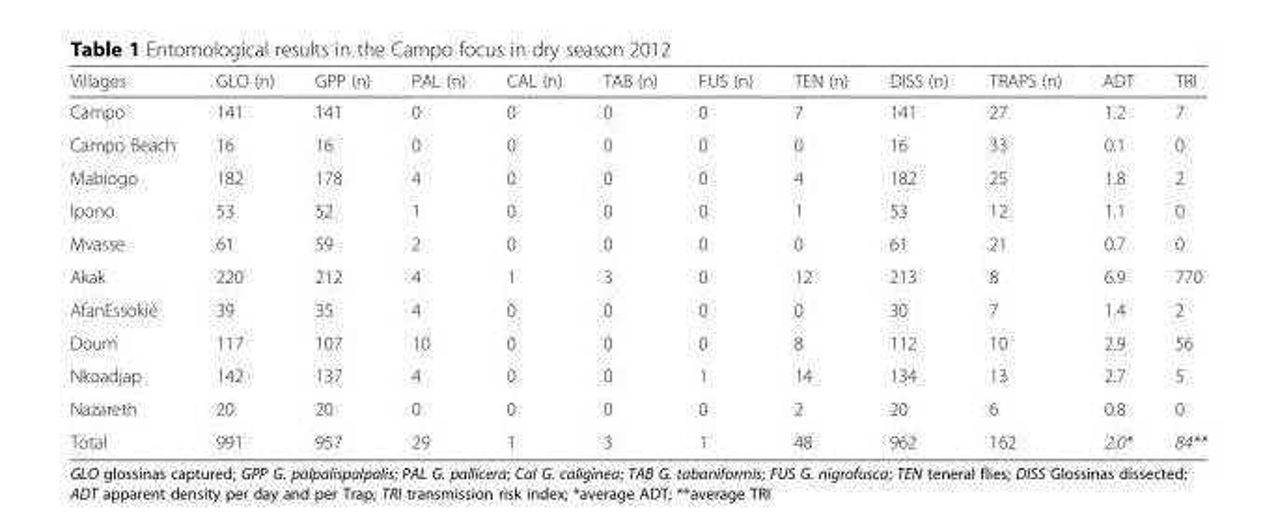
<table><thead><tr><td>Villages</td><td>GLO (n)</td><td>GPP (n)</td><td>PAL (n)</td><td>CAL (n)</td><td>TAB (n)</td><td>FUS (n)</td><td>TEN (n)</td><td>DISS (n)</td><td>TRAPS (n)</td><td>ADT</td><td>TRI</td></tr></thead><tbody><tr><td>Campo</td><td>141</td><td>141</td><td>0</td><td>0</td><td>0</td><td>0</td><td>7</td><td>141</td><td>27</td><td>1.2</td><td>7</td></tr><tr><td>Campo Beach</td><td>16</td><td>16</td><td>0</td><td>0</td><td>0</td><td>0</td><td>0</td><td>16</td><td>33</td><td>0.1</td><td>0</td></tr><tr><td>Mabiogo</td><td>182</td><td>178</td><td>4</td><td>0</td><td>0</td><td>0</td><td>4</td><td>182</td><td>25</td><td>1.8</td><td>2</td></tr><tr><td>Ipono</td><td>53</td><td>52</td><td>1</td><td>0</td><td>0</td><td>0</td><td>1</td><td>53</td><td>12</td><td>1.1</td><td>0</td></tr><tr><td>Mvasse</td><td>61</td><td>59</td><td>2</td><td>0</td><td>0</td><td>0</td><td>0</td><td>61</td><td>21</td><td>0.7</td><td>0</td></tr><tr><td>Akak</td><td>220</td><td>212</td><td>4</td><td>1</td><td>3</td><td>0</td><td>12</td><td>213</td><td>8</td><td>6.9</td><td>770</td></tr><tr><td>AfanEssokié</td><td>39</td><td>35</td><td>4</td><td>0</td><td>0</td><td>0</td><td>0</td><td>30</td><td>7</td><td>1.4</td><td>2</td></tr><tr><td>Doum</td><td>117</td><td>107</td><td>10</td><td>0</td><td>0</td><td>0</td><td>8</td><td>112</td><td>10</td><td>2.9</td><td>56</td></tr><tr><td>Nkoadjap</td><td>142</td><td>137</td><td>4</td><td>0</td><td>0</td><td>1</td><td>14</td><td>134</td><td>13</td><td>2.7</td><td>5</td></tr><tr><td>Nazareth</td><td>20</td><td>20</td><td>0</td><td>0</td><td>0</td><td>0</td><td>2</td><td>20</td><td>6</td><td>0.8</td><td>0</td></tr><tr><td>Total</td><td>991</td><td>957</td><td>29</td><td>1</td><td>3</td><td>1</td><td>48</td><td>962</td><td>162</td><td>2.0*</td><td>84**</td></tr></tbody></table>